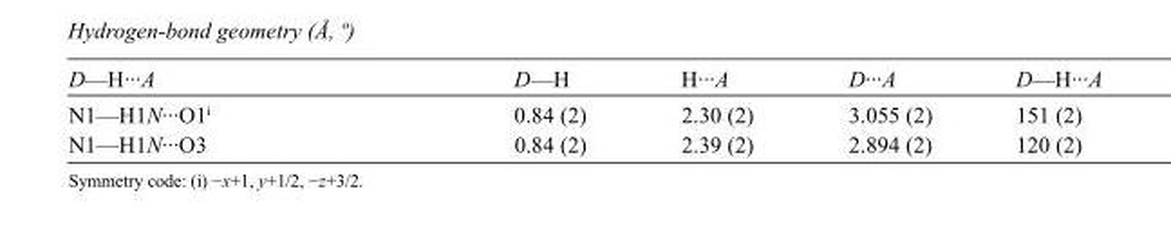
<table><tbody><tr><td>D—H···A</td><td>D—H</td><td>H···A</td><td>D···A</td><td>D—H···A</td></tr><tr><td>N1—H1N···O1<sup>i</sup></td><td>0.84 (2)</td><td>2.30 (2)</td><td>3.055 (2)</td><td>151 (2)</td></tr><tr><td>N1—H1N···O3</td><td>0.84 (2)</td><td>2.39 (2)</td><td>2.894 (2)</td><td>120 (2)</td></tr></tbody></table>